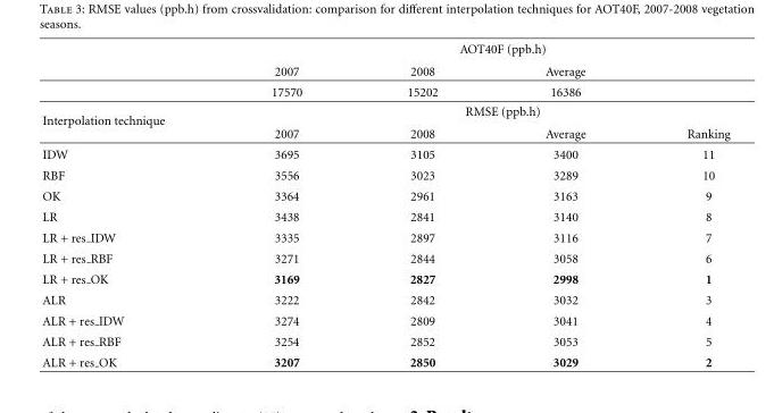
<table><thead><tr><td rowspan="2"></td><td colspan="4">AOT40F (ppb.h)</td></tr><tr><td>2007</td><td>2008</td><td>Average</td><td></td></tr></thead><tbody><tr><td></td><td>17570</td><td>15202</td><td>16386</td><td></td></tr><tr><td rowspan="2">Interpolation technique</td><td colspan="4">RMSE (ppb.h)</td></tr><tr><td>2007</td><td>2008</td><td>Average</td><td>Ranking</td></tr><tr><td>IDW</td><td>3695</td><td>3105</td><td>3400</td><td>11</td></tr><tr><td>RBF</td><td>3556</td><td>3023</td><td>3289</td><td>10</td></tr><tr><td>OK</td><td>3364</td><td>2961</td><td>3163</td><td>9</td></tr><tr><td>LR</td><td>3438</td><td>2841</td><td>3140</td><td>8</td></tr><tr><td>LR + res IDW</td><td>3335</td><td>2897</td><td>3116</td><td>7</td></tr><tr><td>LR + res RBF</td><td>3271</td><td>2844</td><td>3058</td><td>6</td></tr><tr><td>LR + res OK</td><td>3169</td><td>2827</td><td>2998</td><td>1</td></tr><tr><td>ALR</td><td>3222</td><td>2842</td><td>3032</td><td>3</td></tr><tr><td>ALR + res IDW</td><td>3274</td><td>2809</td><td>3041</td><td>4</td></tr><tr><td>ALR + res RBF</td><td>3254</td><td>2852</td><td>3053</td><td>5</td></tr><tr><td>ALR + res OK</td><td>3207</td><td>2850</td><td>3029</td><td>2</td></tr></tbody></table>